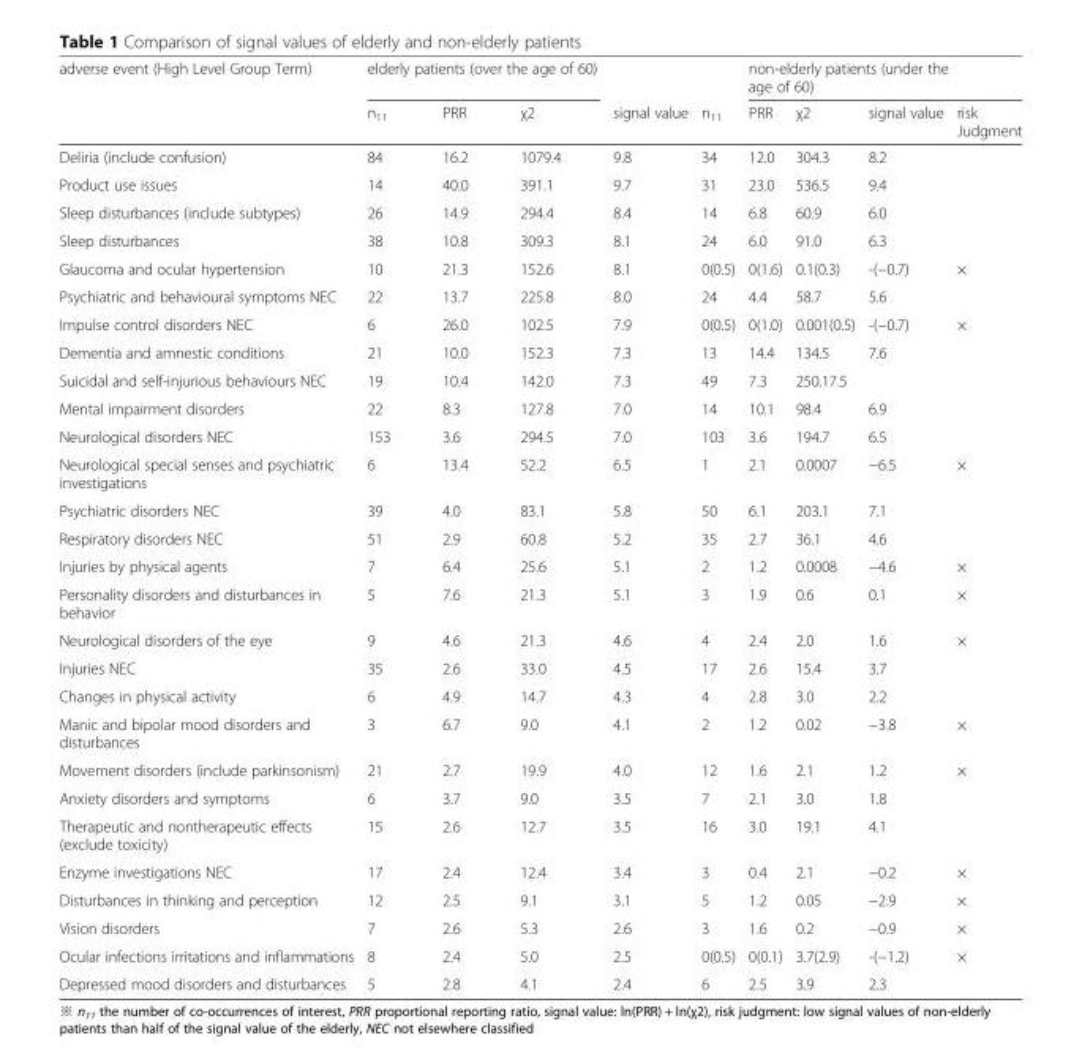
<table><thead><tr><td rowspan="2">adverse event (High Level Group Term)</td><td colspan="3">elderly patients (over the age of 60)</td><td rowspan="2">signal value</td><td rowspan="2">n<sub>11</sub></td><td colspan="4">non-elderly patients (under the age of 60)</td></tr><tr><td>n<sub>11</sub></td><td>PRR</td><td>χ2</td><td>PRR</td><td>χ2</td><td>signal value</td><td>risk Judgment</td></tr></thead><tbody><tr><td>Deliria (include confusion)</td><td>84</td><td>16.2</td><td>1079.4</td><td>9.8</td><td>34</td><td>12.0</td><td>304.3</td><td>8.2</td><td></td></tr><tr><td>Product use issues</td><td>14</td><td>40.0</td><td>391.1</td><td>9.7</td><td>31</td><td>23.0</td><td>536.5</td><td>9.4</td><td></td></tr><tr><td>Sleep disturbances (include subtypes)</td><td>26</td><td>14.9</td><td>294.4</td><td>8.4</td><td>14</td><td>6.8</td><td>60.9</td><td>6.0</td><td></td></tr><tr><td>Sleep disturbances</td><td>38</td><td>10.8</td><td>309.3</td><td>8.1</td><td>24</td><td>6.0</td><td>91.0</td><td>6.3</td><td></td></tr><tr><td>Glaucoma and ocular hypertension</td><td>10</td><td>21.3</td><td>152.6</td><td>8.1</td><td>0(0.5)</td><td>0(1.6)</td><td>0.1(0.3)</td><td>-(−0.7)</td><td>×</td></tr><tr><td>Psychiatric and behavioural symptoms NEC</td><td>22</td><td>13.7</td><td>225.8</td><td>8.0</td><td>24</td><td>4.4</td><td>58.7</td><td>5.6</td><td></td></tr><tr><td>Impulse control disorders NEC</td><td>6</td><td>26.0</td><td>102.5</td><td>7.9</td><td>0(0.5)</td><td>0(1.0)</td><td>0.001(0.5)</td><td>-(−0.7)</td><td>×</td></tr><tr><td>Dementia and amnestic conditions</td><td>21</td><td>10.0</td><td>152.3</td><td>7.3</td><td>13</td><td>14.4</td><td>134.5</td><td>7.6</td><td></td></tr><tr><td>Suicidal and self-injurious behaviours NEC</td><td>19</td><td>10.4</td><td>142.0</td><td>7.3</td><td>49</td><td>7.3</td><td>250.17.5</td><td></td><td></td></tr><tr><td>Mental impairment disorders</td><td>22</td><td>8.3</td><td>127.8</td><td>7.0</td><td>14</td><td>10.1</td><td>98.4</td><td>6.9</td><td></td></tr><tr><td>Neurological disorders NEC</td><td>153</td><td>3.6</td><td>294.5</td><td>7.0</td><td>103</td><td>3.6</td><td>194.7</td><td>6.5</td><td></td></tr><tr><td>Neurological special senses and psychiatric investigations</td><td>6</td><td>13.4</td><td>52.2</td><td>6.5</td><td>1</td><td>2.1</td><td>0.0007</td><td>−6.5</td><td>×</td></tr><tr><td>Psychiatric disorders NEC</td><td>39</td><td>4.0</td><td>83.1</td><td>5.8</td><td>50</td><td>6.1</td><td>203.1</td><td>7.1</td><td></td></tr><tr><td>Respiratory disorders NEC</td><td>51</td><td>2.9</td><td>60.8</td><td>5.2</td><td>35</td><td>2.7</td><td>36.1</td><td>4.6</td><td></td></tr><tr><td>Injuries by physical agents</td><td>7</td><td>6.4</td><td>25.6</td><td>5.1</td><td>2</td><td>1.2</td><td>0.0008</td><td>−4.6</td><td>×</td></tr><tr><td>Personality disorders and disturbances in behavior</td><td>5</td><td>7.6</td><td>21.3</td><td>5.1</td><td>3</td><td>1.9</td><td>0.6</td><td>0.1</td><td>×</td></tr><tr><td>Neurological disorders of the eye</td><td>9</td><td>4.6</td><td>21.3</td><td>4.6</td><td>4</td><td>2.4</td><td>2.0</td><td>1.6</td><td>×</td></tr><tr><td>Injuries NEC</td><td>35</td><td>2.6</td><td>33.0</td><td>4.5</td><td>17</td><td>2.6</td><td>15.4</td><td>3.7</td><td></td></tr><tr><td>Changes in physical activity</td><td>6</td><td>4.9</td><td>14.7</td><td>4.3</td><td>4</td><td>2.8</td><td>3.0</td><td>2.2</td><td></td></tr><tr><td>Manic and bipolar mood disorders and disturbances</td><td>3</td><td>6.7</td><td>9.0</td><td>4.1</td><td>2</td><td>1.2</td><td>0.02</td><td>−3.8</td><td>×</td></tr><tr><td>Movement disorders (include parkinsonism)</td><td>21</td><td>2.7</td><td>19.9</td><td>4.0</td><td>12</td><td>1.6</td><td>2.1</td><td>1.2</td><td>×</td></tr><tr><td>Anxiety disorders and symptoms</td><td>6</td><td>3.7</td><td>9.0</td><td>3.5</td><td>7</td><td>2.1</td><td>3.0</td><td>1.8</td><td></td></tr><tr><td>Therapeutic and nontherapeutic effects (exclude toxicity)</td><td>15</td><td>2.6</td><td>12.7</td><td>3.5</td><td>16</td><td>3.0</td><td>19.1</td><td>4.1</td><td></td></tr><tr><td>Enzyme investigations NEC</td><td>17</td><td>2.4</td><td>12.4</td><td>3.4</td><td>3</td><td>0.4</td><td>2.1</td><td>−0.2</td><td>×</td></tr><tr><td>Disturbances in thinking and perception</td><td>12</td><td>2.5</td><td>9.1</td><td>3.1</td><td>5</td><td>1.2</td><td>0.05</td><td>−2.9</td><td>×</td></tr><tr><td>Vision disorders</td><td>7</td><td>2.6</td><td>5.3</td><td>2.6</td><td>3</td><td>1.6</td><td>0.2</td><td>−0.9</td><td>×</td></tr><tr><td>Ocular infections irritations and inflammations</td><td>8</td><td>2.4</td><td>5.0</td><td>2.5</td><td>0(0.5)</td><td>0(0.1)</td><td>3.7(2.9)</td><td>-(−1.2)</td><td>×</td></tr><tr><td>Depressed mood disorders and disturbances</td><td>5</td><td>2.8</td><td>4.1</td><td>2.4</td><td>6</td><td>2.5</td><td>3.9</td><td>2.3</td><td></td></tr></tbody></table>